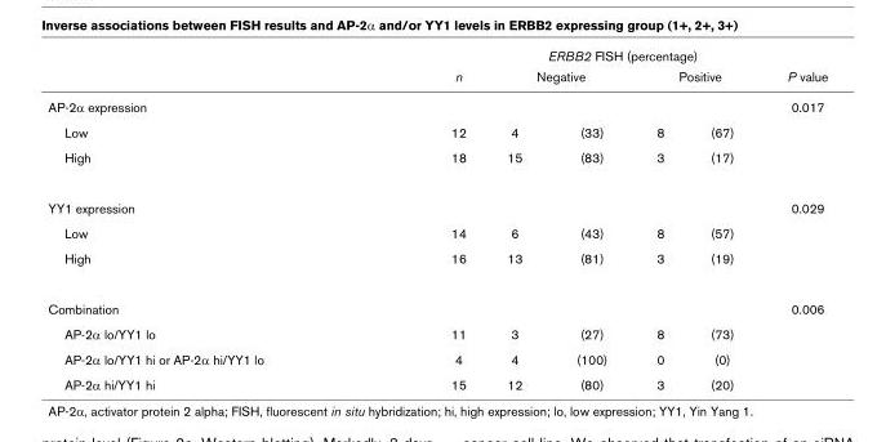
<table><thead><tr><td rowspan="3">AP-2α expression</td><td rowspan="3">n</td><td colspan="4">ERBB2 FISH (percentage)</td><td rowspan="3">P value 0.017</td></tr><tr><td colspan="2">Negative</td><td colspan="2">Positive</td></tr><tr><td></td><td></td><td></td><td></td></tr></thead><tbody><tr><td>Low</td><td>12</td><td>4</td><td>(33)</td><td>8</td><td>(67)</td><td></td></tr><tr><td>High</td><td>18</td><td>15</td><td>(83)</td><td>3</td><td>(17)</td><td></td></tr><tr><td>YY1 expression</td><td></td><td></td><td></td><td></td><td></td><td>0.029</td></tr><tr><td>Low</td><td>14</td><td>6</td><td>(43)</td><td>8</td><td>(57)</td><td></td></tr><tr><td>High</td><td>16</td><td>13</td><td>(81)</td><td>3</td><td>(19)</td><td></td></tr><tr><td>Combination</td><td></td><td></td><td></td><td></td><td></td><td>0.006</td></tr><tr><td>AP-2α lo/YY1 lo</td><td>11</td><td>3</td><td>(27)</td><td>8</td><td>(73)</td><td></td></tr><tr><td>AP-2α lo/YY1 hi or AP-2α hi/YY1 lo</td><td>4</td><td>4</td><td>(100)</td><td>0</td><td>(0)</td><td></td></tr><tr><td>AP-2α hi/YY1 hi</td><td>15</td><td>12</td><td>(80)</td><td>3</td><td>(20)</td><td></td></tr></tbody></table>